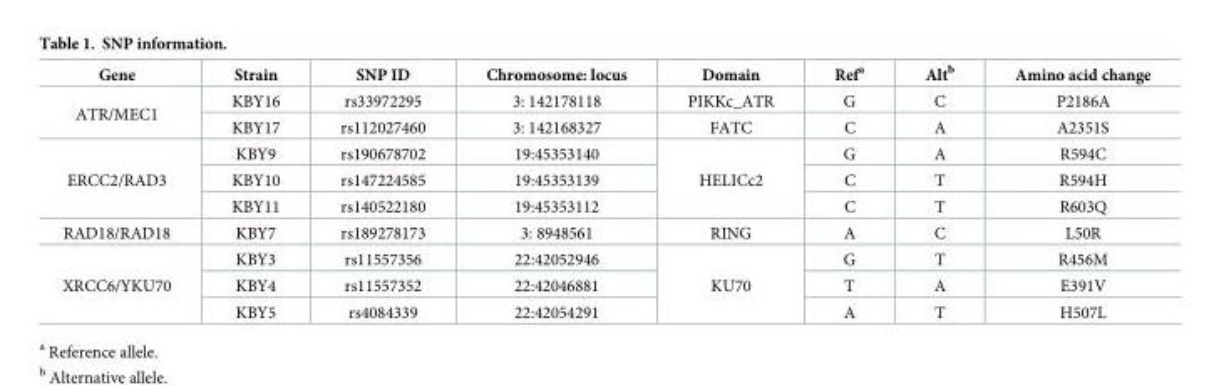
<table><thead><tr><td>Gene</td><td>Strain</td><td>SNP ID</td><td>Chromosome: locus</td><td>Domain</td><td>Ref<sup>a</sup></td><td>Alt<sup>b</sup></td><td>Amino acid change</td></tr></thead><tbody><tr><td rowspan="2">ATR/MEC1</td><td>KBY16</td><td>rs33972295</td><td>3: 142178118</td><td>PIKKc_ATR</td><td>G</td><td>C</td><td>P2186A</td></tr><tr><td>KBY17</td><td>rs112027460</td><td>3: 142168327</td><td>FATC</td><td>C</td><td>A</td><td>A2351S</td></tr><tr><td rowspan="3">ERCC2/RAD3</td><td>KBY9</td><td>rs190678702</td><td>19:45353140</td><td rowspan="3">HELICc2</td><td>G</td><td>A</td><td>R594C</td></tr><tr><td>KBY10</td><td>rs147224585</td><td>19:45353139</td><td>C</td><td>T</td><td>R594H</td></tr><tr><td>KBY11</td><td>rs140522180</td><td>19:45353112</td><td>C</td><td>T</td><td>R603Q</td></tr><tr><td>RAD18/RAD18</td><td>KBY7</td><td>rs189278173</td><td>3: 8948561</td><td>RING</td><td>A</td><td>C</td><td>L50R</td></tr><tr><td rowspan="3">XRCC6/YKU70</td><td>KBY3</td><td>rs11557356</td><td>22:42052946</td><td rowspan="3">KU70</td><td>G</td><td>T</td><td>R456M</td></tr><tr><td>KBY4</td><td>rs11557352</td><td>22:42046881</td><td>T</td><td>A</td><td>E391V</td></tr><tr><td>KBY5</td><td>rs4084339</td><td>22:42054291</td><td>A</td><td>T</td><td>H507L</td></tr></tbody></table>